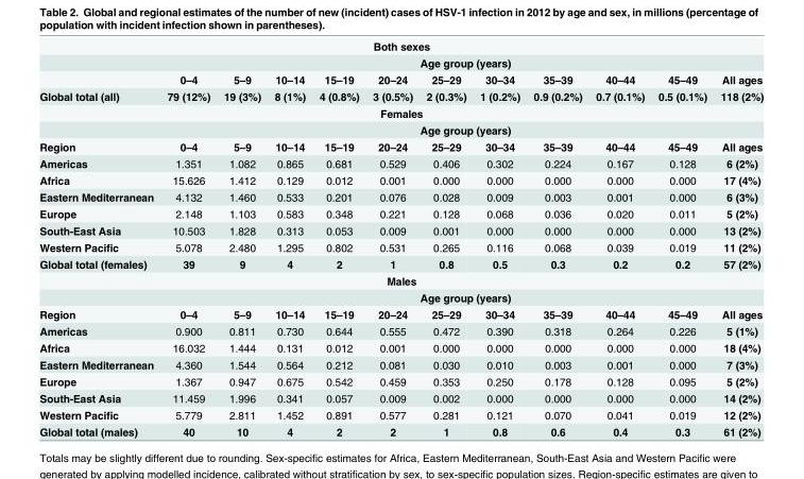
<table><tbody><tr><td colspan="12">Both sexes</td></tr><tr><td></td><td colspan="11">Age group (years)</td></tr><tr><td></td><td>0–4</td><td>5–9</td><td>10–14</td><td>15–19</td><td>20–24</td><td>25–29</td><td>30–34</td><td>35–39</td><td>40–44</td><td>45–49</td><td>All ages</td></tr><tr><td>Global total (all)</td><td>79 (12%)</td><td>19 (3%)</td><td>8 (1%)</td><td>4 (0.8%)</td><td>3 (0.5%)</td><td>2 (0.3%)</td><td>1 (0.2%)</td><td>0.9 (0.2%)</td><td>0.7 (0.1%)</td><td>0.5 (0.1%)</td><td>118 (2%)</td></tr><tr><td colspan="12">Females</td></tr><tr><td></td><td colspan="11">Age group (years)</td></tr><tr><td>Region</td><td>0–4</td><td>5–9</td><td>10–14</td><td>15–19</td><td>20–24</td><td>25–29</td><td>30–34</td><td>35–39</td><td>40–44</td><td>45–49</td><td>All ages</td></tr><tr><td>Americas</td><td>1.351</td><td>1.082</td><td>0.865</td><td>0.681</td><td>0.529</td><td>0.406</td><td>0.302</td><td>0.224</td><td>0.167</td><td>0.128</td><td>6 (2%)</td></tr><tr><td>Africa</td><td>15.626</td><td>1.412</td><td>0.129</td><td>0.012</td><td>0.001</td><td>0.000</td><td>0.000</td><td>0.000</td><td>0.000</td><td>0.000</td><td>17 (4%)</td></tr><tr><td>Eastern Mediterranean</td><td>4.132</td><td>1.460</td><td>0.533</td><td>0.201</td><td>0.076</td><td>0.028</td><td>0.009</td><td>0.003</td><td>0.001</td><td>0.000</td><td>6 (3%)</td></tr><tr><td>Europe</td><td>2.148</td><td>1.103</td><td>0.583</td><td>0.348</td><td>0.221</td><td>0.128</td><td>0.068</td><td>0.036</td><td>0.020</td><td>0.011</td><td>5 (2%)</td></tr><tr><td>South-East Asia</td><td>10.503</td><td>1.828</td><td>0.313</td><td>0.053</td><td>0.009</td><td>0.001</td><td>0.000</td><td>0.000</td><td>0.000</td><td>0.000</td><td>13 (2%)</td></tr><tr><td>Western Pacific</td><td>5.078</td><td>2.480</td><td>1.295</td><td>0.802</td><td>0.531</td><td>0.265</td><td>0.116</td><td>0.068</td><td>0.039</td><td>0.019</td><td>11 (2%)</td></tr><tr><td>Global total (females)</td><td>39</td><td>9</td><td>4</td><td>2</td><td>1</td><td>0.8</td><td>0.5</td><td>0.3</td><td>0.2</td><td>0.2</td><td>57 (2%)</td></tr><tr><td colspan="12">Males</td></tr><tr><td></td><td colspan="11">Age group (years)</td></tr><tr><td>Region</td><td>0–4</td><td>5–9</td><td>10–14</td><td>15–19</td><td>20–24</td><td>25–29</td><td>30–34</td><td>35–39</td><td>40–44</td><td>45–49</td><td>All ages</td></tr><tr><td>Americas</td><td>0.900</td><td>0.811</td><td>0.730</td><td>0.644</td><td>0.555</td><td>0.472</td><td>0.390</td><td>0.318</td><td>0.264</td><td>0.226</td><td>5 (1%)</td></tr><tr><td>Africa</td><td>16.032</td><td>1.444</td><td>0.131</td><td>0.012</td><td>0.001</td><td>0.000</td><td>0.000</td><td>0.000</td><td>0.000</td><td>0.000</td><td>18 (4%)</td></tr><tr><td>Eastern Mediterranean</td><td>4.360</td><td>1.544</td><td>0.564</td><td>0.212</td><td>0.081</td><td>0.030</td><td>0.010</td><td>0.003</td><td>0.001</td><td>0.000</td><td>7 (3%)</td></tr><tr><td>Europe</td><td>1.367</td><td>0.947</td><td>0.675</td><td>0.542</td><td>0.459</td><td>0.353</td><td>0.250</td><td>0.178</td><td>0.128</td><td>0.095</td><td>5 (2%)</td></tr><tr><td>South-East Asia</td><td>11.459</td><td>1.996</td><td>0.341</td><td>0.057</td><td>0.009</td><td>0.002</td><td>0.000</td><td>0.000</td><td>0.000</td><td>0.000</td><td>14 (2%)</td></tr><tr><td>Western Pacific</td><td>5.779</td><td>2.811</td><td>1.452</td><td>0.891</td><td>0.577</td><td>0.281</td><td>0.121</td><td>0.070</td><td>0.041</td><td>0.019</td><td>12 (2%)</td></tr><tr><td>Global total (males)</td><td>40</td><td>10</td><td>4</td><td>2</td><td>2</td><td>1</td><td>0.8</td><td>0.6</td><td>0.4</td><td>0.3</td><td>61 (2%)</td></tr></tbody></table>